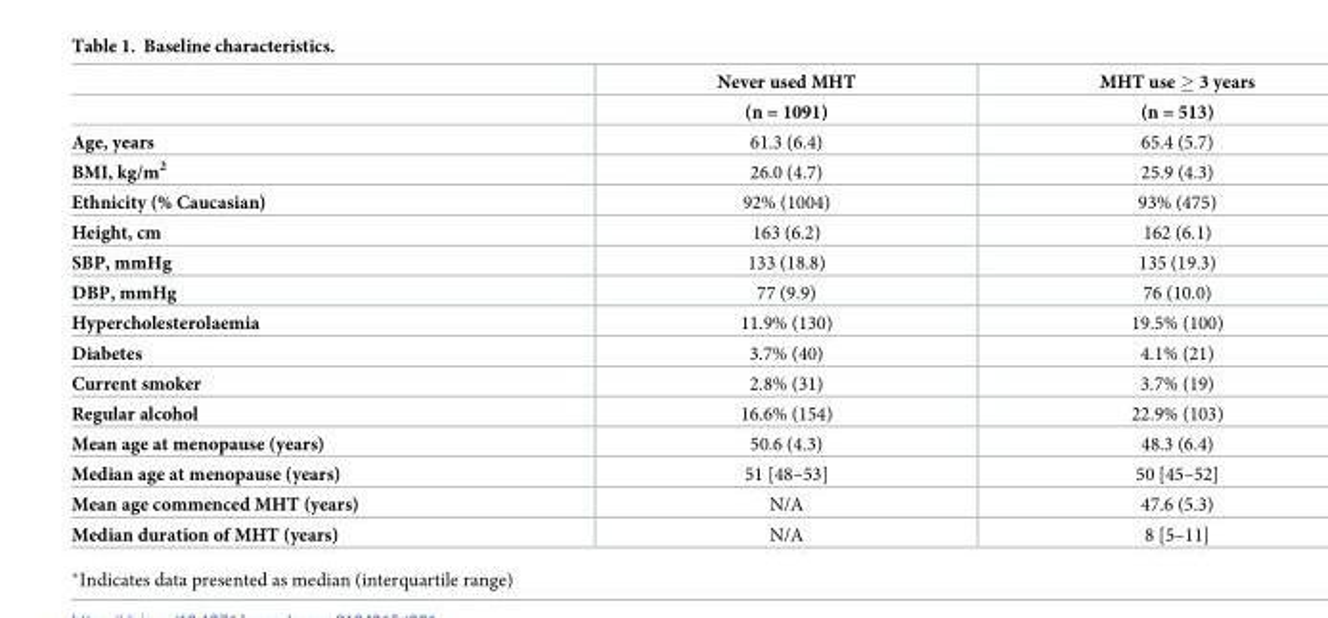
<table><thead><tr><td rowspan="2"></td><td rowspan="2">Never used MHT (n = 1091)</td><td rowspan="2">MHT use ≥ 3 years (n = 513)</td></tr><tr></tr></thead><tbody><tr><td>Age, years</td><td>61.3 (6.4)</td><td>65.4 (5.7)</td></tr><tr><td>BMI, kg/m<sup>2</sup></td><td>26.0 (4.7)</td><td>25.9 (4.3)</td></tr><tr><td>Ethnicity (% Caucasian)</td><td>92% (1004)</td><td>93% (475)</td></tr><tr><td>Height, cm</td><td>163 (6.2)</td><td>162 (6.1)</td></tr><tr><td>SBP, mmHg</td><td>133 (18.8)</td><td>135 (19.3)</td></tr><tr><td>DBP, mmHg</td><td>77 (9.9)</td><td>76 (10.0)</td></tr><tr><td>Hypercholesterolaemia</td><td>11.9% (130)</td><td>19.5% (100)</td></tr><tr><td>Diabetes</td><td>3.7% (40)</td><td>4.1% (21)</td></tr><tr><td>Current smoker</td><td>2.8% (31)</td><td>3.7% (19)</td></tr><tr><td>Regular alcohol</td><td>16.6% (154)</td><td>22.9% (103)</td></tr><tr><td>Mean age at menopause (years)</td><td>50.6 (4.3)</td><td>48.3 (6.4)</td></tr><tr><td>Median age at menopause (years)</td><td>51 [48–53]</td><td>50 [45–52]</td></tr><tr><td>Mean age commenced MHT (years)</td><td>N/A</td><td>47.6 (5.3)</td></tr><tr><td>Median duration of MHT (years)</td><td>N/A</td><td>8 [5–11]</td></tr></tbody></table>